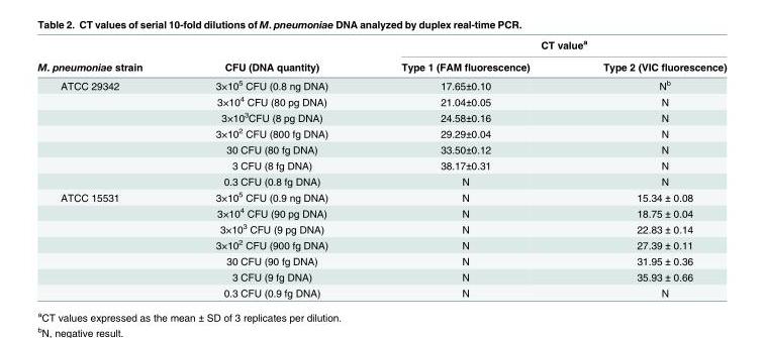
<table><thead><tr><td rowspan="2">M. pneumoniae strain</td><td rowspan="2">CFU (DNA quantity)</td><td colspan="2">CT value<sup>a</sup></td></tr><tr><td>Type 1 (FAM fluorescence)</td><td>Type 2 (VIC fluorescence)</td></tr></thead><tbody><tr><td rowspan="7">ATCC 29342</td><td>3×10<sup>5</sup> CFU (0.8 ng DNA)</td><td>17.65±0.10</td><td>N<sup>b</sup></td></tr><tr><td>3×10<sup>4</sup> CFU (80 pg DNA)</td><td>21.04±0.05</td><td>N</td></tr><tr><td>3×10<sup>3</sup>CFU (8 pg DNA)</td><td>24.58±0.16</td><td>N</td></tr><tr><td>3×10<sup>2</sup> CFU (800 fg DNA)</td><td>29.29±0.04</td><td>N</td></tr><tr><td>30 CFU (80 fg DNA)</td><td>33.50±0.12</td><td>N</td></tr><tr><td>3 CFU (8 fg DNA)</td><td>38.17±0.31</td><td>N</td></tr><tr><td>0.3 CFU (0.8 fg DNA)</td><td>N</td><td>N</td></tr><tr><td rowspan="7">ATCC 15531</td><td>3×10<sup>5</sup> CFU (0.9 ng DNA)</td><td>N</td><td>15.34 ± 0.08</td></tr><tr><td>3×10<sup>4</sup> CFU (90 pg DNA)</td><td>N</td><td>18.75 ± 0.04</td></tr><tr><td>3×10<sup>3</sup> CFU (9 pg DNA)</td><td>N</td><td>22.83 ± 0.14</td></tr><tr><td>3×10<sup>2</sup> CFU (900 fg DNA)</td><td>N</td><td>27.39 ± 0.11</td></tr><tr><td>30 CFU (90 fg DNA)</td><td>N</td><td>31.95 ± 0.36</td></tr><tr><td>3 CFU (9 fg DNA)</td><td>N</td><td>35.93 ± 0.66</td></tr><tr><td>0.3 CFU (0.9 fg DNA)</td><td>N</td><td>N</td></tr></tbody></table>